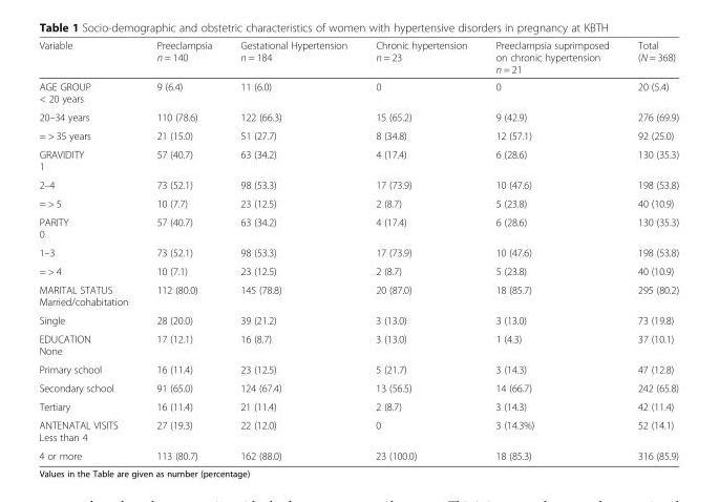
<table><thead><tr><td>Variable</td><td>Preeclampsia n = 140</td><td>Gestational Hypertension n = 184</td><td>Chronic hypertension n = 23</td><td>Preeclampsia suprimposed on chronic hypertension n = 21</td><td>Total (N = 368)</td></tr></thead><tbody><tr><td>AGE GROUP &lt; 20 years</td><td>9 (6.4)</td><td>11 (6.0)</td><td>0</td><td>0</td><td>20 (5.4)</td></tr><tr><td>20–34 years</td><td>110 (78.6)</td><td>122 (66.3)</td><td>15 (65.2)</td><td>9 (42.9)</td><td>276 (69.9)</td></tr><tr><td>= &gt; 35 years</td><td>21 (15.0)</td><td>51 (27.7)</td><td>8 (34.8)</td><td>12 (57.1)</td><td>92 (25.0)</td></tr><tr><td>GRAVIDITY 1</td><td>57 (40.7)</td><td>63 (34.2)</td><td>4 (17.4)</td><td>6 (28.6)</td><td>130 (35.3)</td></tr><tr><td>2–4</td><td>73 (52.1)</td><td>98 (53.3)</td><td>17 (73.9)</td><td>10 (47.6)</td><td>198 (53.8)</td></tr><tr><td>= &gt; 5</td><td>10 (7.7)</td><td>23 (12.5)</td><td>2 (8.7)</td><td>5 (23.8)</td><td>40 (10.9)</td></tr><tr><td>PARITY 0</td><td>57 (40.7)</td><td>63 (34.2)</td><td>4 (17.4)</td><td>6 (28.6)</td><td>130 (35.3)</td></tr><tr><td>1–3</td><td>73 (52.1)</td><td>98 (53.3)</td><td>17 (73.9)</td><td>10 (47.6)</td><td>198 (53.8)</td></tr><tr><td>= &gt; 4</td><td>10 (7.1)</td><td>23 (12.5)</td><td>2 (8.7)</td><td>5 (23.8)</td><td>40 (10.9)</td></tr><tr><td>MARITAL STATUS Married/cohabitation</td><td>112 (80.0)</td><td>145 (78.8)</td><td>20 (87.0)</td><td>18 (85.7)</td><td>295 (80.2)</td></tr><tr><td>Single</td><td>28 (20.0)</td><td>39 (21.2)</td><td>3 (13.0)</td><td>3 (13.0)</td><td>73 (19.8)</td></tr><tr><td>EDUCATION None</td><td>17 (12.1)</td><td>16 (8.7)</td><td>3 (13.0)</td><td>1 (4.3)</td><td>37 (10.1)</td></tr><tr><td>Primary school</td><td>16 (11.4)</td><td>23 (12.5)</td><td>5 (21.7)</td><td>3 (14.3)</td><td>47 (12.8)</td></tr><tr><td>Secondary school</td><td>91 (65.0)</td><td>124 (67.4)</td><td>13 (56.5)</td><td>14 (66.7)</td><td>242 (65.8)</td></tr><tr><td>Tertiary</td><td>16 (11.4)</td><td>21 (11.4)</td><td>2 (8.7)</td><td>3 (14.3)</td><td>42 (11.4)</td></tr><tr><td>ANTENATAL VISITS Less than 4</td><td>27 (19.3)</td><td>22 (12.0)</td><td>0</td><td>3 (14.3%)</td><td>52 (14.1)</td></tr><tr><td>4 or more</td><td>113 (80.7)</td><td>162 (88.0)</td><td>23 (100.0)</td><td>18 (85.3)</td><td>316 (85.9)</td></tr></tbody></table>